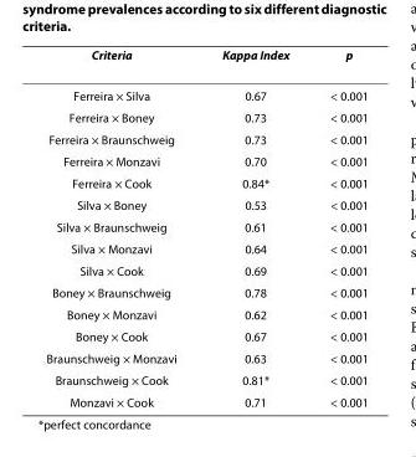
<table><thead><tr><td>Criteria</td><td>Kappa Index</td><td>p</td></tr></thead><tbody><tr><td>Ferreira × Silva</td><td>0.67</td><td>&lt; 0.001</td></tr><tr><td>Ferreira × Boney</td><td>0.73</td><td>&lt; 0.001</td></tr><tr><td>Ferreira × Braunschweig</td><td>0.73</td><td>&lt; 0.001</td></tr><tr><td>Ferreira × Monzavi</td><td>0.70</td><td>&lt; 0.001</td></tr><tr><td>Ferreira × Cook</td><td>0.84*</td><td>&lt; 0.001</td></tr><tr><td>Silva × Boney</td><td>0.53</td><td>&lt; 0.001</td></tr><tr><td>Silva × Braunschweig</td><td>0.61</td><td>&lt; 0.001</td></tr><tr><td>Silva × Monzavi</td><td>0.64</td><td>&lt; 0.001</td></tr><tr><td>Silva × Cook</td><td>0.69</td><td>&lt; 0.001</td></tr><tr><td>Boney × Braunschweig</td><td>0.78</td><td>&lt; 0.001</td></tr><tr><td>Boney × Monzavi</td><td>0.62</td><td>&lt; 0.001</td></tr><tr><td>Boney × Cook</td><td>0.67</td><td>&lt; 0.001</td></tr><tr><td>Braunschweig × Monzavi</td><td>0.63</td><td>&lt; 0.001</td></tr><tr><td>Braunschweig × Cook</td><td>0.81*</td><td>&lt; 0.001</td></tr><tr><td>Monzavi × Cook</td><td>0.71</td><td>&lt; 0.001</td></tr></tbody></table>